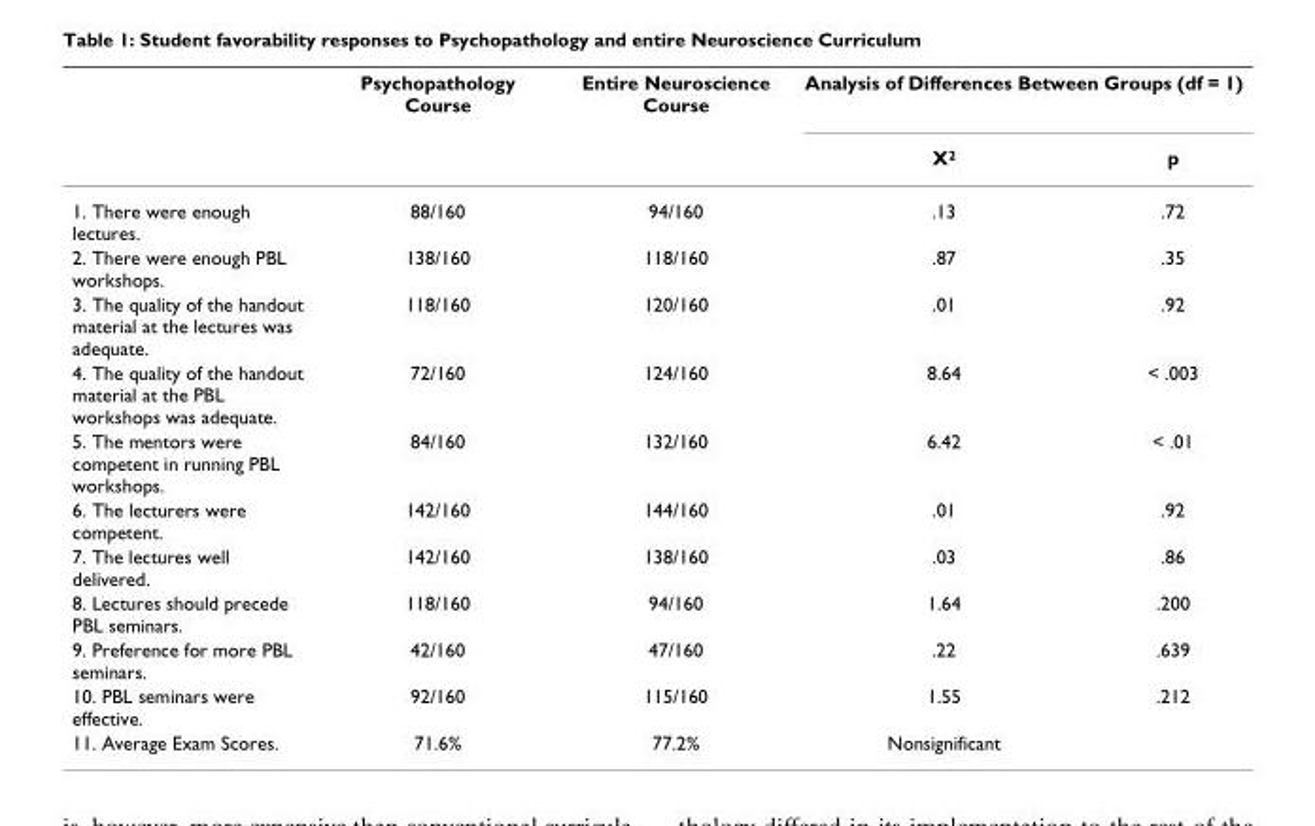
<table><thead><tr><td rowspan="2"></td><td rowspan="2">Psychopathology Course</td><td rowspan="2">Entire Neuroscience Course</td><td colspan="2">Analysis of Differences Between Groups (df = 1)</td></tr><tr><td>X2</td><td>p</td></tr></thead><tbody><tr><td>1. There were enough lectures.</td><td>88/160</td><td>94/160</td><td>.13</td><td>.72</td></tr><tr><td>2. There were enough PBL workshops.</td><td>138/160</td><td>118/160</td><td>.87</td><td>.35</td></tr><tr><td>3. The quality of the handout material at the lectures was adequate.</td><td>118/160</td><td>120/160</td><td>.01</td><td>.92</td></tr><tr><td>4. The quality of the handout material at the PBL workshops was adequate.</td><td>72/160</td><td>124/160</td><td>8.64</td><td>&lt; .003</td></tr><tr><td>5. The mentors were competent in running PBL workshops.</td><td>84/160</td><td>132/160</td><td>6.42</td><td>&lt; .01</td></tr><tr><td>6. The lecturers were competent.</td><td>142/160</td><td>144/160</td><td>.01</td><td>.92</td></tr><tr><td>7. The lectures well delivered.</td><td>142/160</td><td>138/160</td><td>.03</td><td>.86</td></tr><tr><td>8. Lectures should precede PBL seminars.</td><td>118/160</td><td>94/160</td><td>1.64</td><td>.200</td></tr><tr><td>9. Preference for more PBL seminars.</td><td>42/160</td><td>47/160</td><td>.22</td><td>.639</td></tr><tr><td>10. PBL seminars were effective.</td><td>92/160</td><td>115/160</td><td>1.55</td><td>.212</td></tr><tr><td>11. Average Exam Scores.</td><td>71.6%</td><td>77.2%</td><td>Nonsignificant</td><td></td></tr></tbody></table>